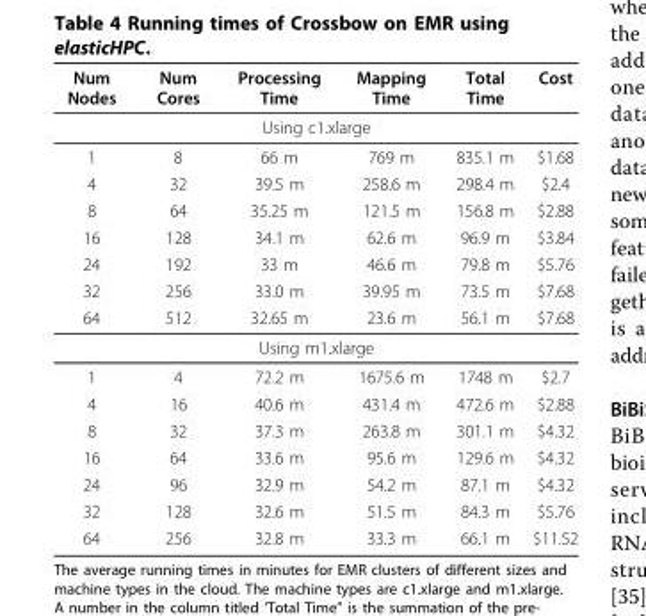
<table><thead><tr><td>Num Nodes</td><td>Num Cores</td><td>Processing Time</td><td>Mapping Time</td><td>Total Time</td><td>Cost</td></tr></thead><tbody><tr><td colspan="6">Using c1.xlarge</td></tr><tr><td>1</td><td>8</td><td>66 m</td><td>769 m</td><td>835.1 m</td><td>$1.68</td></tr><tr><td>4</td><td>32</td><td>39.5 m</td><td>258.6 m</td><td>298.4 m</td><td>$2.4</td></tr><tr><td>8</td><td>64</td><td>35.25 m</td><td>121.5 m</td><td>156.8 m</td><td>$2.88</td></tr><tr><td>16</td><td>128</td><td>34.1 m</td><td>62.6 m</td><td>96.9 m</td><td>$3.84</td></tr><tr><td>24</td><td>192</td><td>33 m</td><td>46.6 m</td><td>79.8 m</td><td>$5.76</td></tr><tr><td>32</td><td>256</td><td>33.0 m</td><td>39.95 m</td><td>73.5 m</td><td>$7.68</td></tr><tr><td>64</td><td>512</td><td>32.65 m</td><td>23.6 m</td><td>56.1 m</td><td>$7.68</td></tr><tr><td colspan="6">Using m1.xlarge</td></tr><tr><td>1</td><td>4</td><td>72.2 m</td><td>1675.6 m</td><td>1748 m</td><td>$2.7</td></tr><tr><td>4</td><td>16</td><td>40.6 m</td><td>431.4 m</td><td>472.6 m</td><td>$2.88</td></tr><tr><td>8</td><td>32</td><td>37.3 m</td><td>263.8 m</td><td>301.1 m</td><td>$4.32</td></tr><tr><td>16</td><td>64</td><td>33.6 m</td><td>95.6 m</td><td>129.6 m</td><td>$4.32</td></tr><tr><td>24</td><td>96</td><td>32.9 m</td><td>54.2 m</td><td>87.1 m</td><td>$4.32</td></tr><tr><td>32</td><td>128</td><td>32.6 m</td><td>51.5 m</td><td>84.3 m</td><td>$5.76</td></tr><tr><td>64</td><td>256</td><td>32.8 m</td><td>33.3 m</td><td>66.1 m</td><td>$11.52</td></tr></tbody></table>